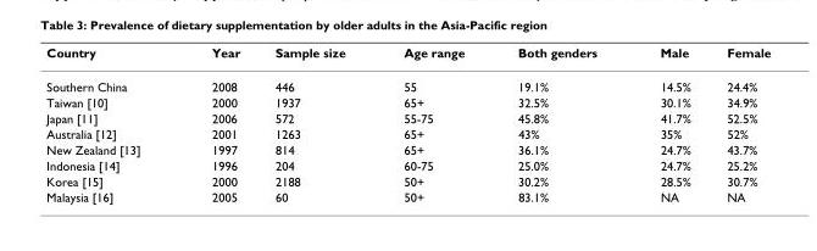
<table><thead><tr><td>Country</td><td>Year</td><td>Sample size</td><td>Age range</td><td>Both genders</td><td>Male</td><td>Female</td></tr></thead><tbody><tr><td>Southern China</td><td>2008</td><td>446</td><td>55</td><td>19.1%</td><td>14.5%</td><td>24.4%</td></tr><tr><td>Taiwan [10]</td><td>2000</td><td>1937</td><td>65+</td><td>32.5%</td><td>30.1%</td><td>34.9%</td></tr><tr><td>Japan [11]</td><td>2006</td><td>572</td><td>55-75</td><td>45.8%</td><td>41.7%</td><td>52.5%</td></tr><tr><td>Australia [12]</td><td>2001</td><td>1263</td><td>65+</td><td>43%</td><td>35%</td><td>52%</td></tr><tr><td>New Zealand [13]</td><td>1997</td><td>814</td><td>65+</td><td>36.1%</td><td>24.7%</td><td>43.7%</td></tr><tr><td>Indonesia [14]</td><td>1996</td><td>204</td><td>60-75</td><td>25.0%</td><td>24.7%</td><td>25.2%</td></tr><tr><td>Korea [15]</td><td>2000</td><td>2188</td><td>50+</td><td>30.2%</td><td>28.5%</td><td>30.7%</td></tr><tr><td>Malaysia [16]</td><td>2005</td><td>60</td><td>50+</td><td>83.1%</td><td>NA</td><td>NA</td></tr></tbody></table>